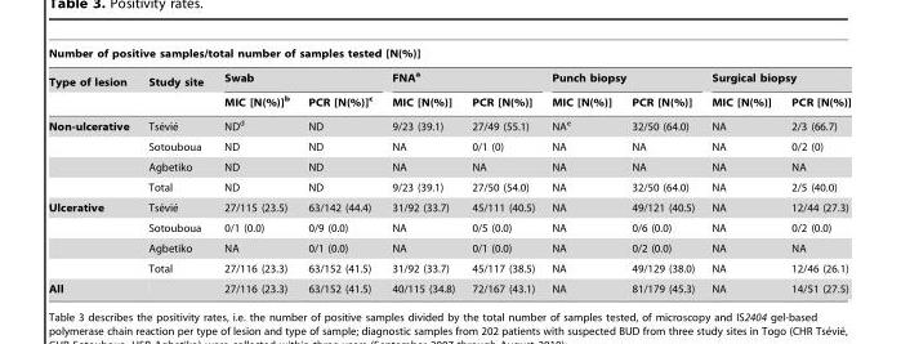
<table><thead><tr><td colspan="10">Number of positive samples/total number of samples tested [N(%)]</td></tr><tr><td rowspan="2">Type of lesion</td><td rowspan="2">Study site</td><td colspan="2">Swab</td><td colspan="2">FNA<sup>a</sup></td><td colspan="2">Punch biopsy</td><td colspan="2">Surgical biopsy</td></tr><tr><td>MIC [N(%)]<sup>b</sup></td><td>PCR [N(%)]<sup>c</sup></td><td>MIC [N(%)]</td><td>PCR [N(%)]</td><td>MIC [N(%)]</td><td>PCR [N(%)]</td><td>MIC [N(%)]</td><td>PCR [N(%)]</td></tr></thead><tbody><tr><td rowspan="4">Non-ulcerative</td><td>Tse´vie´</td><td>ND<sup>d</sup></td><td>ND</td><td>9/23 (39.1)</td><td>27/49 (55.1)</td><td>NA<sup>e</sup></td><td>32/50 (64.0)</td><td>NA</td><td>2/3 (66.7)</td></tr><tr><td>Sotouboua</td><td>ND</td><td>ND</td><td>NA</td><td>0/1 (0)</td><td>NA</td><td>NA</td><td>NA</td><td>0/2 (0)</td></tr><tr><td>Agbetiko</td><td>ND</td><td>ND</td><td>NA</td><td>NA</td><td>NA</td><td>NA</td><td>NA</td><td>NA</td></tr><tr><td>Total</td><td>ND</td><td>ND</td><td>9/23 (39.1)</td><td>27/50 (54.0)</td><td>NA</td><td>32/50 (64.0)</td><td>NA</td><td>2/5 (40.0)</td></tr><tr><td rowspan="4">Ulcerative</td><td>Tse´vie´</td><td>27/115 (23.5)</td><td>63/142 (44.4)</td><td>31/92 (33.7)</td><td>45/111 (40.5)</td><td>NA</td><td>49/121 (40.5)</td><td>NA</td><td>12/44 (27.3)</td></tr><tr><td>Sotouboua</td><td>0/1 (0.0)</td><td>0/9 (0.0)</td><td>NA</td><td>0/5 (0.0)</td><td>NA</td><td>0/6 (0.0)</td><td>NA</td><td>0/2 (0.0)</td></tr><tr><td>Agbetiko</td><td>NA</td><td>0/1 (0.0)</td><td>NA</td><td>0/1 (0.0)</td><td>NA</td><td>0/2 (0.0)</td><td>NA</td><td>NA</td></tr><tr><td>Total</td><td>27/116 (23.3)</td><td>63/152 (41.5)</td><td>31/92 (33.7)</td><td>45/117 (38.5)</td><td>NA</td><td>49/129 (38.0)</td><td>NA</td><td>12/46 (26.1)</td></tr><tr><td>All</td><td></td><td>27/116 (23.3)</td><td>63/152 (41.5)</td><td>40/115 (34.8)</td><td>72/167 (43.1)</td><td>NA</td><td>81/179 (45.3)</td><td>NA</td><td>14/51 (27.5)</td></tr></tbody></table>